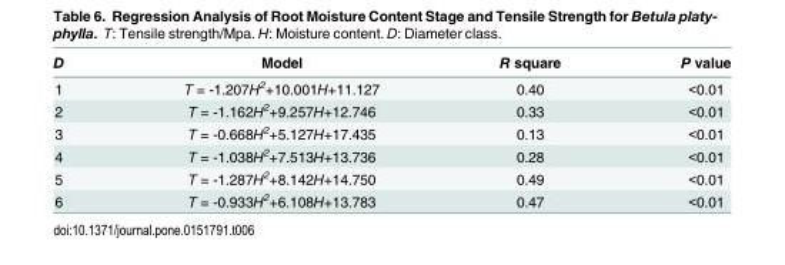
<table><thead><tr><td>D</td><td>Model</td><td>R square</td><td>P value</td></tr></thead><tbody><tr><td>1</td><td>T = -1.207H<sup>2</sup>+10.001H+11.127</td><td>0.40</td><td>&lt;0.01</td></tr><tr><td>2</td><td>T = -1.162H<sup>2</sup>+9.257H+12.746</td><td>0.33</td><td>&lt;0.01</td></tr><tr><td>3</td><td>T = -0.668H<sup>2</sup>+5.127H+17.435</td><td>0.13</td><td>&lt;0.01</td></tr><tr><td>4</td><td>T = -1.038H<sup>2</sup>+7.513H+13.736</td><td>0.28</td><td>&lt;0.01</td></tr><tr><td>5</td><td>T = -1.287H<sup>2</sup>+8.142H+14.750</td><td>0.49</td><td>&lt;0.01</td></tr><tr><td>6</td><td>T = -0.933H<sup>2</sup>+6.108H+13.783</td><td>0.47</td><td>&lt;0.01</td></tr></tbody></table>